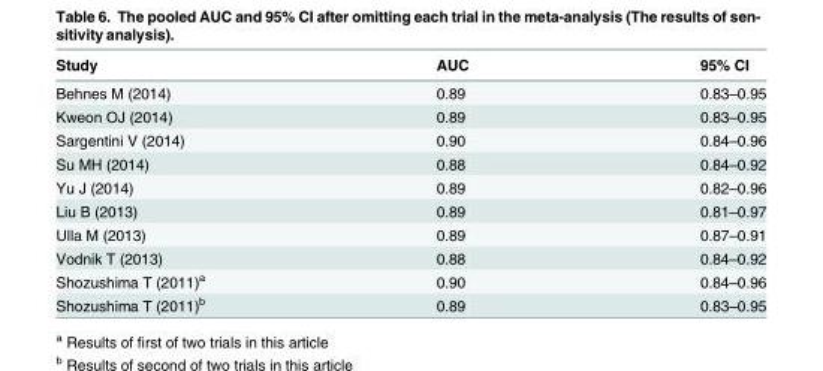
<table><thead><tr><td>Study</td><td>AUC</td><td>95% CI</td></tr></thead><tbody><tr><td>Behnes M (2014)</td><td>0.89</td><td>0.83–0.95</td></tr><tr><td>Kweon OJ (2014)</td><td>0.89</td><td>0.83–0.95</td></tr><tr><td>Sargentini V (2014)</td><td>0.90</td><td>0.84–0.96</td></tr><tr><td>Su MH (2014)</td><td>0.88</td><td>0.84–0.92</td></tr><tr><td>Yu J (2014)</td><td>0.89</td><td>0.82–0.96</td></tr><tr><td>Liu B (2013)</td><td>0.89</td><td>0.81–0.97</td></tr><tr><td>Ulla M (2013)</td><td>0.89</td><td>0.87–0.91</td></tr><tr><td>Vodnik T (2013)</td><td>0.88</td><td>0.84–0.92</td></tr><tr><td>Shozushima T (2011)<sup>a</sup></td><td>0.90</td><td>0.84–0.96</td></tr><tr><td>Shozushima T (2011)<sup>b</sup></td><td>0.89</td><td>0.83–0.95</td></tr></tbody></table>